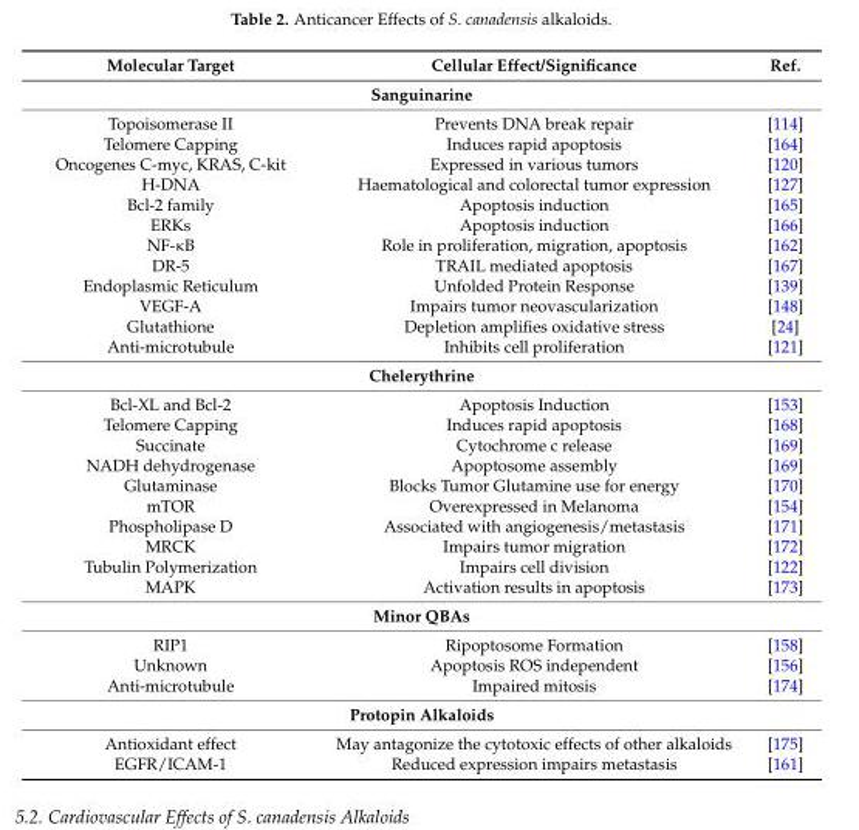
<table><thead><tr><td>Molecular Target</td><td>Cellular Effect/Significance</td><td>Ref.</td></tr></thead><tbody><tr><td colspan="3">Sanguinarine</td></tr><tr><td>Topoisomerase II</td><td>Prevents DNA break repair</td><td>[114]</td></tr><tr><td>Telomere Capping</td><td>Induces rapid apoptosis</td><td>[164]</td></tr><tr><td>Oncogenes C-myc, KRAS, C-kit</td><td>Expressed in various tumors</td><td>[120]</td></tr><tr><td>H-DNA</td><td>Haematological and colorectal tumor expression</td><td>[127]</td></tr><tr><td>Bcl-2 family</td><td>Apoptosis induction</td><td>[165]</td></tr><tr><td>ERKs</td><td>Apoptosis induction</td><td>[166]</td></tr><tr><td>NF-κB</td><td>Role in proliferation, migration, apoptosis</td><td>[162]</td></tr><tr><td>DR-5</td><td>TRAIL mediated apoptosis</td><td>[167]</td></tr><tr><td>Endoplasmic Reticulum</td><td>Unfolded Protein Response</td><td>[139]</td></tr><tr><td>VEGF-A</td><td>Impairs tumor neovascularization</td><td>[148]</td></tr><tr><td>Glutathione</td><td>Depletion amplifies oxidative stress</td><td>[24]</td></tr><tr><td>Anti-microtubule</td><td>Inhibits cell proliferation</td><td>[121]</td></tr><tr><td colspan="3">Chelerythrine</td></tr><tr><td>Bcl-XL and Bcl-2</td><td>Apoptosis Induction</td><td>[153]</td></tr><tr><td>Telomere Capping</td><td>Induces rapid apoptosis</td><td>[168]</td></tr><tr><td>Succinate</td><td>Cytochrome c release</td><td>[169]</td></tr><tr><td>NADH dehydrogenase</td><td>Apoptosome assembly</td><td>[169]</td></tr><tr><td>Glutaminase</td><td>Blocks Tumor Glutamine use for energy</td><td>[170]</td></tr><tr><td>mTOR</td><td>Overexpressed in Melanoma</td><td>[154]</td></tr><tr><td>Phospholipase D</td><td>Associated with angiogenesis/metastasis</td><td>[171]</td></tr><tr><td>MRCK</td><td>Impairs tumor migration</td><td>[172]</td></tr><tr><td>Tubulin Polymerization</td><td>Impairs cell division</td><td>[122]</td></tr><tr><td>MAPK</td><td>Activation results in apoptosis</td><td>[173]</td></tr><tr><td colspan="3">Minor QBAs</td></tr><tr><td>RIP1</td><td>Ripoptosome Formation</td><td>[158]</td></tr><tr><td>Unknown</td><td>Apoptosis ROS independent</td><td>[156]</td></tr><tr><td>Anti-microtubule</td><td>Impaired mitosis</td><td>[174]</td></tr><tr><td colspan="3">Protopin Alkaloids</td></tr><tr><td>Antioxidant effect</td><td>May antagonize the cytotoxic effects of other alkaloids</td><td>[175]</td></tr><tr><td>EGFR/ICAM-1</td><td>Reduced expression impairs metastasis</td><td>[161]</td></tr></tbody></table>